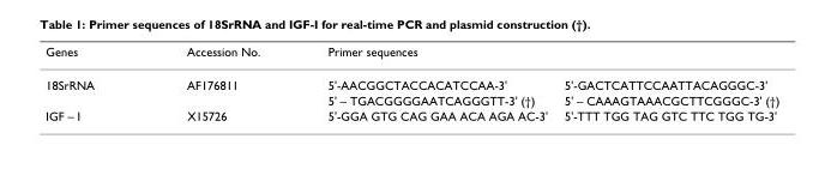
<table><thead><tr><td rowspan="2">Genes 18SrRNA</td><td rowspan="2">Accession No. AF176811</td><td colspan="2">Primer sequences</td></tr><tr><td>5&#x27;-AACGGCTACCACATCCAA-3&#x27;</td><td>5&#x27;-GACTCATTCCAATTACAGGGC-3&#x27;</td></tr></thead><tbody><tr><td></td><td></td><td>5&#x27; – TGACGGGGAATCAGGGTT-3&#x27; (†)</td><td>5&#x27; – CAAAGTAAACGCTTCGGGC-3&#x27; (†)</td></tr><tr><td>IGF – I</td><td>X15726</td><td>5&#x27;-GGA GTG CAG GAA ACA AGA AC-3&#x27;</td><td>5&#x27;-TTT TGG TAG GTC TTC TGG TG-3&#x27;</td></tr></tbody></table>